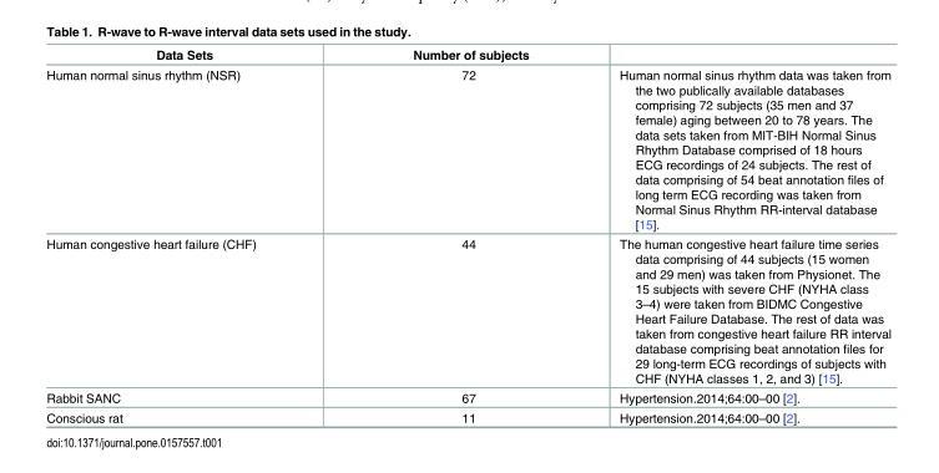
<table><thead><tr><td>Data Sets</td><td>Number of subjects</td><td></td></tr></thead><tbody><tr><td>Human normal sinus rhythm (NSR)</td><td>72</td><td>Human normal sinus rhythm data was taken from the two publically available databases comprising 72 subjects (35 men and 37 female) aging between 20 to 78 years. The data sets taken from MIT-BIH Normal Sinus Rhythm Database comprised of 18 hours ECG recordings of 24 subjects. The rest of data comprising of 54 beat annotation files of long term ECG recording was taken from Normal Sinus Rhythm RR-interval database [15].</td></tr><tr><td>Human congestive heart failure (CHF)</td><td>44</td><td>The human congestive heart failure time series data comprising of 44 subjects (15 women and 29 men) was taken from Physionet. The 15 subjects with severe CHF (NYHA class 3–4) were taken from BIDMC Congestive Heart Failure Database. The rest of data was taken from congestive heart failure RR interval database comprising beat annotation files for 29 long-term ECG recordings of subjects with CHF (NYHA classes 1, 2, and 3) [15].</td></tr><tr><td>Rabbit SANC</td><td>67</td><td>Hypertension.2014;64:00–00 [2].</td></tr><tr><td>Conscious rat</td><td>11</td><td>Hypertension.2014;64:00–00 [2].</td></tr></tbody></table>